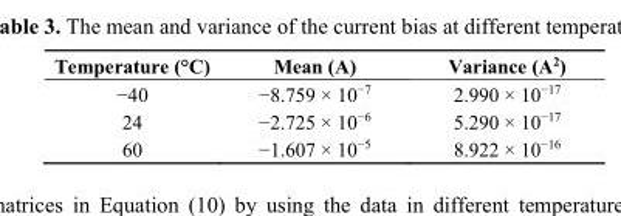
<table><thead><tr><td>Temperature (°C)</td><td>Mean (A)</td><td>Variance (A<sup>2</sup>)</td></tr></thead><tbody><tr><td>−40</td><td>−8.759 × 10<sup>−7</sup></td><td>2.990 × 10<sup>−17</sup></td></tr><tr><td>24</td><td>−2.725 × 10<sup>−6</sup></td><td>5.290 × 10<sup>−17</sup></td></tr><tr><td>60</td><td>−1.607 × 10<sup>−5</sup></td><td>8.922 × 10<sup>−16</sup></td></tr></tbody></table>